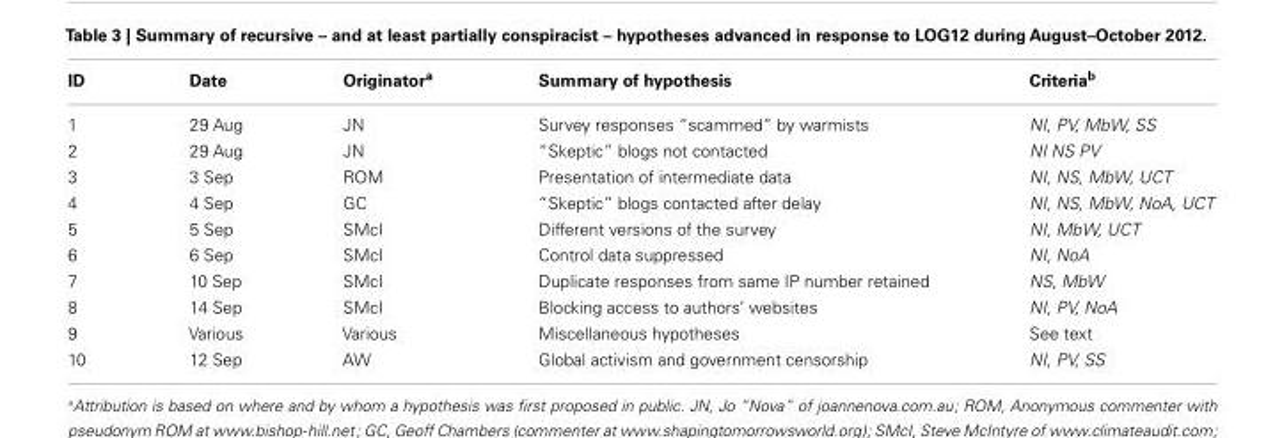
<table><thead><tr><td>ID</td><td>Date</td><td>Originatora</td><td>Summary of hypothesis</td><td>Criteriab</td></tr></thead><tbody><tr><td>1</td><td>29 Aug</td><td>JN</td><td>Survey responses “scammed” by warmists</td><td>NI, PV, MbW, SS</td></tr><tr><td>2</td><td>29 Aug</td><td>JN</td><td>“Skeptic” blogs not contacted</td><td>NI NS PV</td></tr><tr><td>3</td><td>3 Sep</td><td>ROM</td><td>Presentation of intermediate data</td><td>NI, NS, MbW, UCT</td></tr><tr><td>4</td><td>4 Sep</td><td>GC</td><td>“Skeptic” blogs contacted after delay</td><td>NI, NS, MbW, NoA, UCT</td></tr><tr><td>5</td><td>5 Sep</td><td>SMcI</td><td>Different versions of the survey</td><td>NI, MbW, UCT</td></tr><tr><td>6</td><td>6 Sep</td><td>SMcI</td><td>Control data suppressed</td><td>NI, NoA</td></tr><tr><td>7</td><td>10 Sep</td><td>SMcI</td><td>Duplicate responses from same IP number retained</td><td>NS, MbW</td></tr><tr><td>8</td><td>14 Sep</td><td>SMcI</td><td>Blocking access to authors’ websites</td><td>NI, PV, NoA</td></tr><tr><td>9</td><td>Various</td><td>Various</td><td>Miscellaneous hypotheses</td><td>See text</td></tr><tr><td>10</td><td>12 Sep</td><td>AW</td><td>Global activism and government censorship</td><td>NI, PV, SS</td></tr></tbody></table>